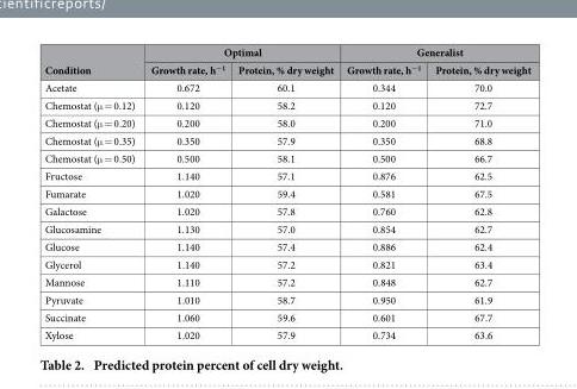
<table><thead><tr><td rowspan="2">Condition</td><td colspan="2">Optimal</td><td colspan="2">Generalist</td></tr><tr><td>Growth rate, h<sup>−1</sup></td><td>Protein, % dry weight</td><td>Growth rate, h<sup>−1</sup></td><td>Protein, % dry weight</td></tr></thead><tbody><tr><td>Acetate</td><td>0.672</td><td>60.1</td><td>0.344</td><td>70.0</td></tr><tr><td>Chemostat (µ = 0.12)</td><td>0.120</td><td>58.2</td><td>0.120</td><td>72.7</td></tr><tr><td>Chemostat (µ = 0.20)</td><td>0.200</td><td>58.0</td><td>0.200</td><td>71.0</td></tr><tr><td>Chemostat (µ = 0.35)</td><td>0.350</td><td>57.9</td><td>0.350</td><td>68.8</td></tr><tr><td>Chemostat (µ = 0.50)</td><td>0.500</td><td>58.1</td><td>0.500</td><td>66.7</td></tr><tr><td>Fructose</td><td>1.140</td><td>57.1</td><td>0.876</td><td>62.5</td></tr><tr><td>Fumarate</td><td>1.020</td><td>59.4</td><td>0.581</td><td>67.5</td></tr><tr><td>Galactose</td><td>1.020</td><td>57.8</td><td>0.760</td><td>62.8</td></tr><tr><td>Glucosamine</td><td>1.130</td><td>57.0</td><td>0.854</td><td>62.7</td></tr><tr><td>Glucose</td><td>1.140</td><td>57.4</td><td>0.886</td><td>62.4</td></tr><tr><td>Glycerol</td><td>1.140</td><td>57.2</td><td>0.821</td><td>63.4</td></tr><tr><td>Mannose</td><td>1.110</td><td>57.2</td><td>0.848</td><td>62.7</td></tr><tr><td>Pyruvate</td><td>1.010</td><td>58.7</td><td>0.950</td><td>61.9</td></tr><tr><td>Succinate</td><td>1.060</td><td>59.6</td><td>0.601</td><td>67.7</td></tr><tr><td>Xylose</td><td>1.020</td><td>57.9</td><td>0.734</td><td>63.6</td></tr></tbody></table>